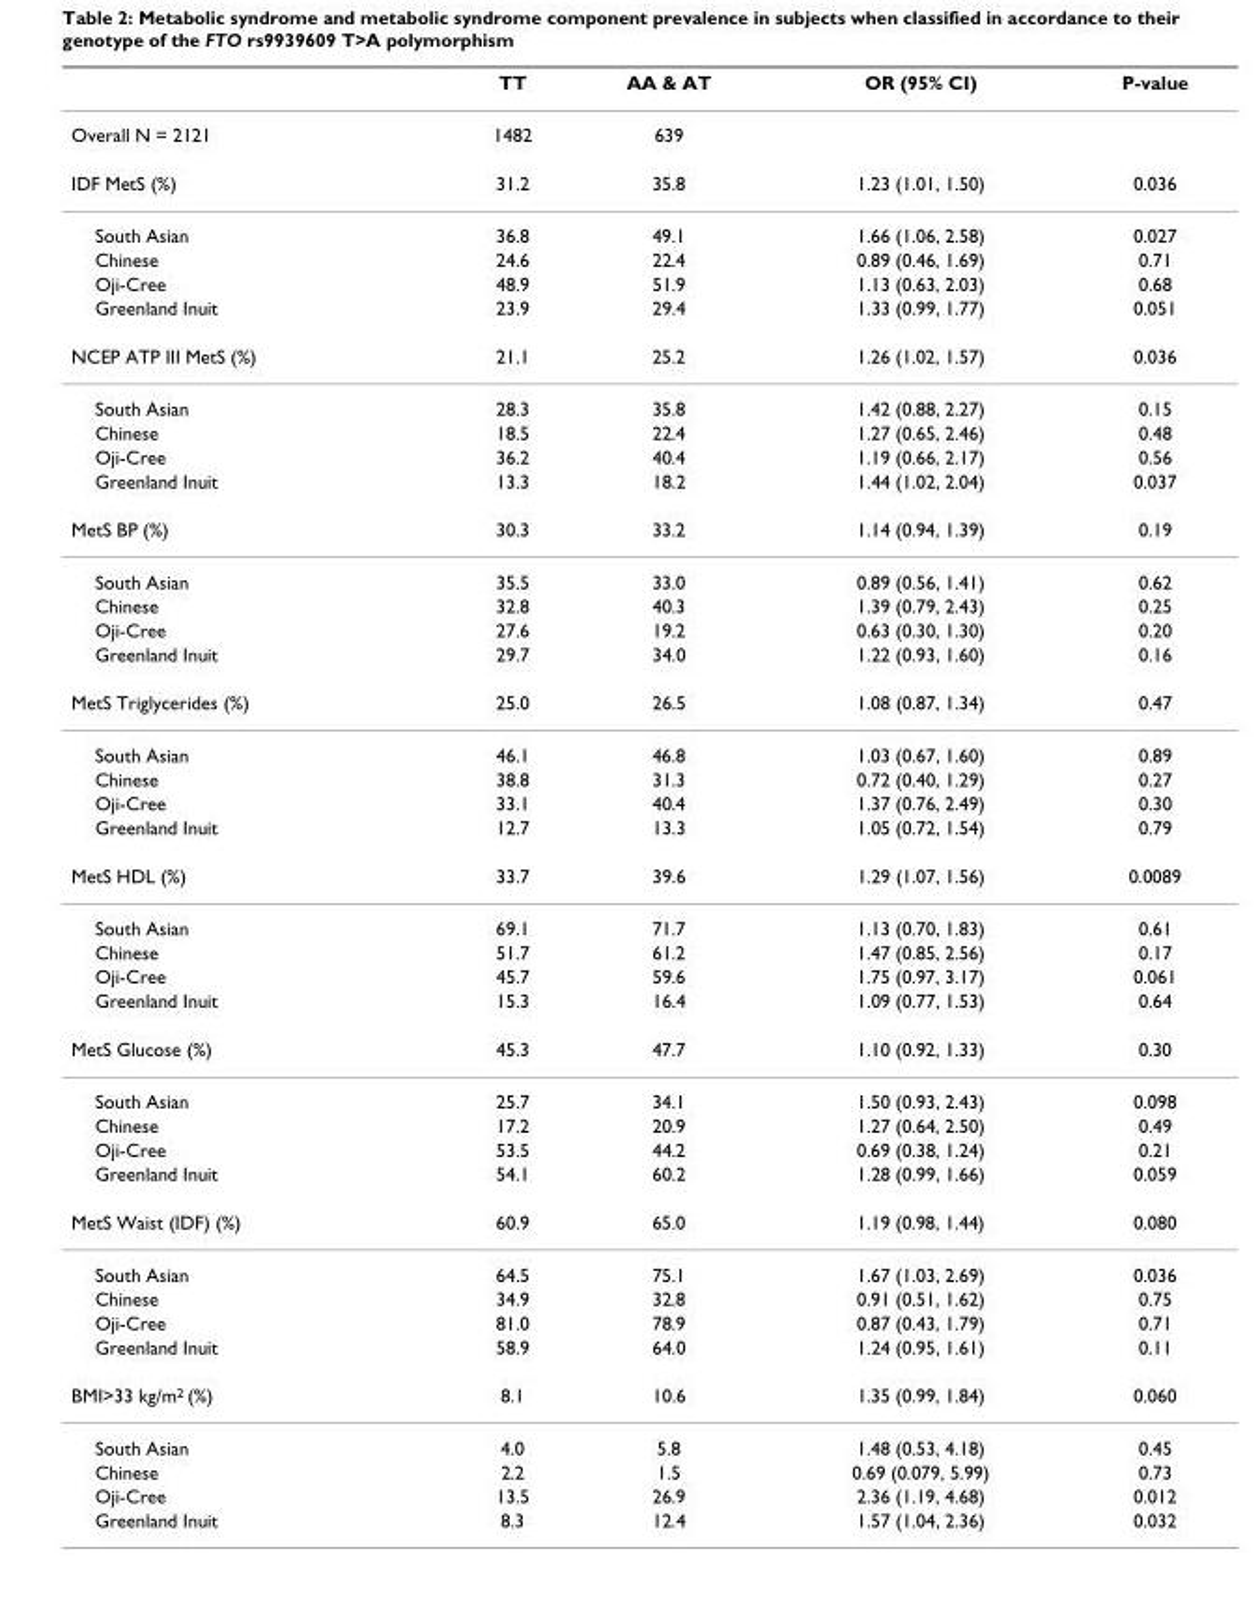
<table><thead><tr><td></td><td>TT</td><td>AA &amp; AT</td><td>OR (95% CI)</td><td>P-value</td></tr></thead><tbody><tr><td>Overall N = 2121</td><td>1482</td><td>639</td><td></td><td></td></tr><tr><td>IDF MetS (%)</td><td>31.2</td><td>35.8</td><td>1.23 (1.01, 1.50)</td><td>0.036</td></tr><tr><td>South Asian</td><td>36.8</td><td>49.1</td><td>1.66 (1.06, 2.58)</td><td>0.027</td></tr><tr><td>Chinese</td><td>24.6</td><td>22.4</td><td>0.89 (0.46, 1.69)</td><td>0.71</td></tr><tr><td>Oji-Cree</td><td>48.9</td><td>51.9</td><td>1.13 (0.63, 2.03)</td><td>0.68</td></tr><tr><td>Greenland Inuit</td><td>23.9</td><td>29.4</td><td>1.33 (0.99, 1.77)</td><td>0.051</td></tr><tr><td>NCEP ATP III MetS (%)</td><td>21.1</td><td>25.2</td><td>1.26 (1.02, 1.57)</td><td>0.036</td></tr><tr><td>South Asian</td><td>28.3</td><td>35.8</td><td>1.42 (0.88, 2.27)</td><td>0.15</td></tr><tr><td>Chinese</td><td>18.5</td><td>22.4</td><td>1.27 (0.65, 2.46)</td><td>0.48</td></tr><tr><td>Oji-Cree</td><td>36.2</td><td>40.4</td><td>1.19 (0.66, 2.17)</td><td>0.56</td></tr><tr><td>Greenland Inuit</td><td>13.3</td><td>18.2</td><td>1.44 (1.02, 2.04)</td><td>0.037</td></tr><tr><td>MetS BP (%)</td><td>30.3</td><td>33.2</td><td>1.14 (0.94, 1.39)</td><td>0.19</td></tr><tr><td>South Asian</td><td>35.5</td><td>33.0</td><td>0.89 (0.56, 1.41)</td><td>0.62</td></tr><tr><td>Chinese</td><td>32.8</td><td>40.3</td><td>1.39 (0.79, 2.43)</td><td>0.25</td></tr><tr><td>Oji-Cree</td><td>27.6</td><td>19.2</td><td>0.63 (0.30, 1.30)</td><td>0.20</td></tr><tr><td>Greenland Inuit</td><td>29.7</td><td>34.0</td><td>1.22 (0.93, 1.60)</td><td>0.16</td></tr><tr><td>MetS Triglycerides (%)</td><td>25.0</td><td>26.5</td><td>1.08 (0.87, 1.34)</td><td>0.47</td></tr><tr><td>South Asian</td><td>46.1</td><td>46.8</td><td>1.03 (0.67, 1.60)</td><td>0.89</td></tr><tr><td>Chinese</td><td>38.8</td><td>31.3</td><td>0.72 (0.40, 1.29)</td><td>0.27</td></tr><tr><td>Oji-Cree</td><td>33.1</td><td>40.4</td><td>1.37 (0.76, 2.49)</td><td>0.30</td></tr><tr><td>Greenland Inuit</td><td>12.7</td><td>13.3</td><td>1.05 (0.72, 1.54)</td><td>0.79</td></tr><tr><td>MetS HDL (%)</td><td>33.7</td><td>39.6</td><td>1.29 (1.07, 1.56)</td><td>0.0089</td></tr><tr><td>South Asian</td><td>69.1</td><td>71.7</td><td>1.13 (0.70, 1.83)</td><td>0.61</td></tr><tr><td>Chinese</td><td>51.7</td><td>61.2</td><td>1.47 (0.85, 2.56)</td><td>0.17</td></tr><tr><td>Oji-Cree</td><td>45.7</td><td>59.6</td><td>1.75 (0.97, 3.17)</td><td>0.061</td></tr><tr><td>Greenland Inuit</td><td>15.3</td><td>16.4</td><td>1.09 (0.77, 1.53)</td><td>0.64</td></tr><tr><td>MetS Glucose (%)</td><td>45.3</td><td>47.7</td><td>1.10 (0.92, 1.33)</td><td>0.30</td></tr><tr><td>South Asian</td><td>25.7</td><td>34.1</td><td>1.50 (0.93, 2.43)</td><td>0.098</td></tr><tr><td>Chinese</td><td>17.2</td><td>20.9</td><td>1.27 (0.64, 2.50)</td><td>0.49</td></tr><tr><td>Oji-Cree</td><td>53.5</td><td>44.2</td><td>0.69 (0.38, 1.24)</td><td>0.21</td></tr><tr><td>Greenland Inuit</td><td>54.1</td><td>60.2</td><td>1.28 (0.99, 1.66)</td><td>0.059</td></tr><tr><td>MetS Waist (IDF) (%)</td><td>60.9</td><td>65.0</td><td>1.19 (0.98, 1.44)</td><td>0.080</td></tr><tr><td>South Asian</td><td>64.5</td><td>75.1</td><td>1.67 (1.03, 2.69)</td><td>0.036</td></tr><tr><td>Chinese</td><td>34.9</td><td>32.8</td><td>0.91 (0.51, 1.62)</td><td>0.75</td></tr><tr><td>Oji-Cree</td><td>81.0</td><td>78.9</td><td>0.87 (0.43, 1.79)</td><td>0.71</td></tr><tr><td>Greenland Inuit</td><td>58.9</td><td>64.0</td><td>1.24 (0.95, 1.61)</td><td>0.11</td></tr><tr><td>BMI&gt;33 kg/m<sup>2</sup> (%)</td><td>8.1</td><td>10.6</td><td>1.35 (0.99, 1.84)</td><td>0.060</td></tr><tr><td>South Asian</td><td>4.0</td><td>5.8</td><td>1.48 (0.53, 4.18)</td><td>0.45</td></tr><tr><td>Chinese</td><td>2.2</td><td>1.5</td><td>0.69 (0.079, 5.99)</td><td>0.73</td></tr><tr><td>Oji-Cree</td><td>13.5</td><td>26.9</td><td>2.36 (1.19, 4.68)</td><td>0.012</td></tr><tr><td>Greenland Inuit</td><td>8.3</td><td>12.4</td><td>1.57 (1.04, 2.36)</td><td>0.032</td></tr></tbody></table>